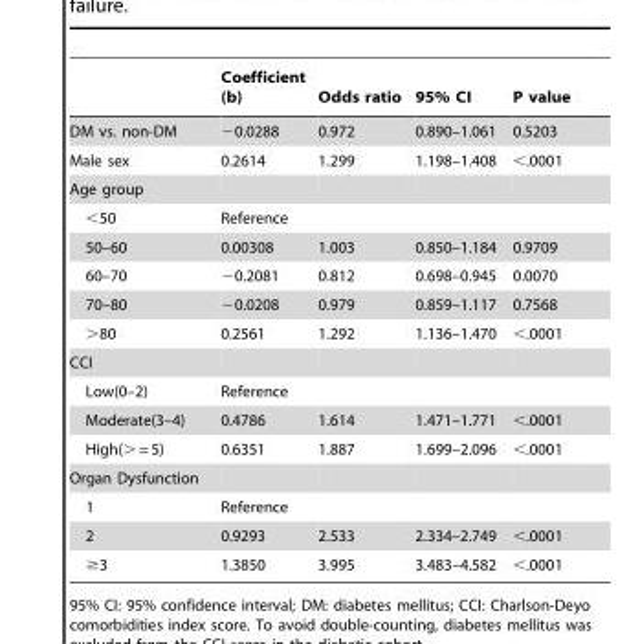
<table><thead><tr><td></td><td>Coefficient (b)</td><td>Odds ratio</td><td>95% CI</td><td>P value</td></tr></thead><tbody><tr><td>DM vs. non-DM</td><td>−0.0288</td><td>0.972</td><td>0.890–1.061</td><td>0.5203</td></tr><tr><td>Male sex</td><td>0.2614</td><td>1.299</td><td>1.198–1.408</td><td>&lt;.0001</td></tr><tr><td colspan="5">Age group</td></tr><tr><td>&lt;50</td><td>Reference</td><td></td><td></td><td></td></tr><tr><td>50–60</td><td>0.00308</td><td>1.003</td><td>0.850–1.184</td><td>0.9709</td></tr><tr><td>60–70</td><td>−0.2081</td><td>0.812</td><td>0.698–0.945</td><td>0.0070</td></tr><tr><td>70–80</td><td>−0.0208</td><td>0.979</td><td>0.859–1.117</td><td>0.7568</td></tr><tr><td>&gt;80</td><td>0.2561</td><td>1.292</td><td>1.136–1.470</td><td>&lt;.0001</td></tr><tr><td colspan="5">CCI</td></tr><tr><td>Low(0–2)</td><td>Reference</td><td></td><td></td><td></td></tr><tr><td>Moderate(3–4)</td><td>0.4786</td><td>1.614</td><td>1.471–1.771</td><td>&lt;.0001</td></tr><tr><td>High(&gt; = 5)</td><td>0.6351</td><td>1.887</td><td>1.699–2.096</td><td>&lt;.0001</td></tr><tr><td colspan="5">Organ Dysfunction</td></tr><tr><td>1</td><td>Reference</td><td></td><td></td><td></td></tr><tr><td>2</td><td>0.9293</td><td>2.533</td><td>2.334–2.749</td><td>&lt;.0001</td></tr><tr><td>≥3</td><td>1.3850</td><td>3.995</td><td>3.483–4.582</td><td>&lt;.0001</td></tr></tbody></table>